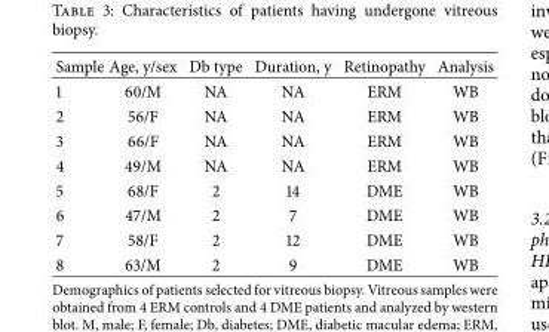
<table><thead><tr><td>Sample</td><td>Age, y/sex</td><td>Db type</td><td>Duration, y</td><td>Retinopathy</td><td>Analysis</td></tr></thead><tbody><tr><td>1</td><td>60/M</td><td>NA</td><td>NA</td><td>ERM</td><td>WB</td></tr><tr><td>2</td><td>56/F</td><td>NA</td><td>NA</td><td>ERM</td><td>WB</td></tr><tr><td>3</td><td>66/F</td><td>NA</td><td>NA</td><td>ERM</td><td>WB</td></tr><tr><td>4</td><td>49/M</td><td>NA</td><td>NA</td><td>ERM</td><td>WB</td></tr><tr><td>5</td><td>68/F</td><td>2</td><td>14</td><td>DME</td><td>WB</td></tr><tr><td>6</td><td>47/M</td><td>2</td><td>7</td><td>DME</td><td>WB</td></tr><tr><td>7</td><td>58/F</td><td>2</td><td>12</td><td>DME</td><td>WB</td></tr><tr><td>8</td><td>63/M</td><td>2</td><td>9</td><td>DME</td><td>WB</td></tr></tbody></table>